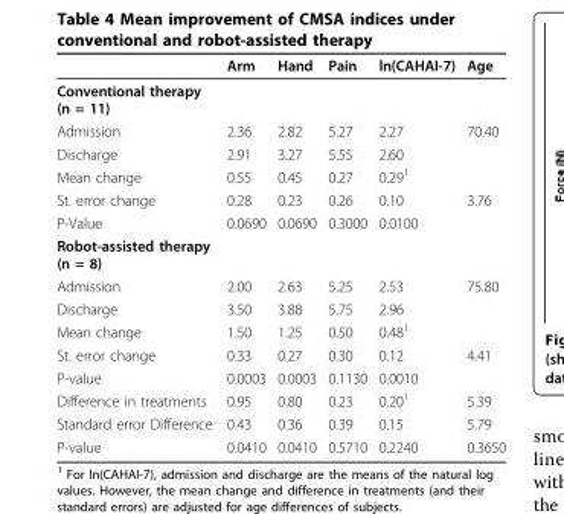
<table><thead><tr><td></td><td>Arm</td><td>Hand</td><td>Pain</td><td>ln(CAHAI-7)</td><td>Age</td></tr></thead><tbody><tr><td colspan="6">Conventional therapy (n = 11)</td></tr><tr><td>Admission</td><td>2.36</td><td>2.82</td><td>5.27</td><td>2.27</td><td>70.40</td></tr><tr><td>Discharge</td><td>2.91</td><td>3.27</td><td>5.55</td><td>2.60</td><td></td></tr><tr><td>Mean change</td><td>0.55</td><td>0.45</td><td>0.27</td><td>0.29<sup>1</sup></td><td></td></tr><tr><td>St. error change</td><td>0.28</td><td>0.23</td><td>0.26</td><td>0.10</td><td>3.76</td></tr><tr><td>P-Value</td><td>0.0690</td><td>0.0690</td><td>0.3000</td><td>0.0100</td><td></td></tr><tr><td colspan="6">Robot-assisted therapy (n = 8)</td></tr><tr><td>Admission</td><td>2.00</td><td>2.63</td><td>5.25</td><td>2.53</td><td>75.80</td></tr><tr><td>Discharge</td><td>3.50</td><td>3.88</td><td>5.75</td><td>2.96</td><td></td></tr><tr><td>Mean change</td><td>1.50</td><td>1.25</td><td>0.50</td><td>0.48<sup>1</sup></td><td></td></tr><tr><td>St. error change</td><td>0.33</td><td>0.27</td><td>0.30</td><td>0.12</td><td>4.41</td></tr><tr><td>P-value</td><td>0.0003</td><td>0.0003</td><td>0.1130</td><td>0.0010</td><td></td></tr><tr><td>Difference in treatments</td><td>0.95</td><td>0.80</td><td>0.23</td><td>0.20<sup>1</sup></td><td>5.39</td></tr><tr><td>Standard error Difference</td><td>0.43</td><td>0.36</td><td>0.39</td><td>0.15</td><td>5.79</td></tr><tr><td>P-value</td><td>0.0410</td><td>0.0410</td><td>0.5710</td><td>0.2240</td><td>0.3650</td></tr></tbody></table>